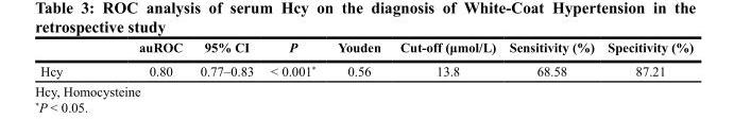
<table><thead><tr><td></td><td>auROC</td><td>95% CI</td><td>P</td><td>Youden</td><td>Cut-off (μmol/L)</td><td>Sensitivity (%)</td><td>Specitivity (%)</td></tr></thead><tbody><tr><td>Hcy</td><td>0.80</td><td>0.77–0.83</td><td>&lt; 0.001*</td><td>0.56</td><td>13.8</td><td>68.58</td><td>87.21</td></tr></tbody></table>